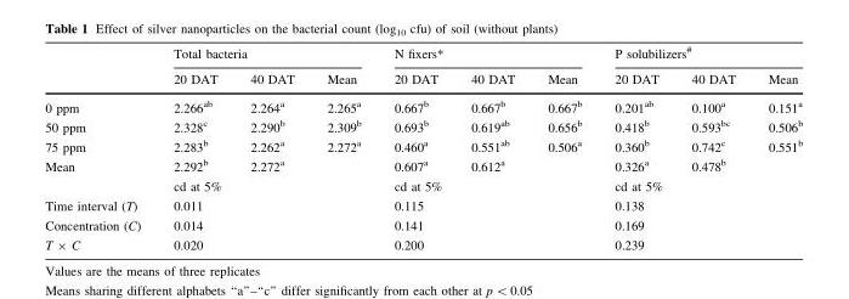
<table><thead><tr><td rowspan="2"></td><td colspan="3">Total bacteria</td><td colspan="3">N fixers*</td><td colspan="3">P solubilizers<sup>#</sup></td></tr><tr><td>20 DAT</td><td>40 DAT</td><td>Mean</td><td>20 DAT</td><td>40 DAT</td><td>Mean</td><td>20 DAT</td><td>40 DAT</td><td>Mean</td></tr></thead><tbody><tr><td>0 ppm</td><td>2.266<sup>ab</sup></td><td>2.264<sup>a</sup></td><td>2.265<sup>a</sup></td><td>0.667<sup>b</sup></td><td>0.667<sup>b</sup></td><td>0.667<sup>b</sup></td><td>0.201<sup>ab</sup></td><td>0.100<sup>a</sup></td><td>0.151<sup>a</sup></td></tr><tr><td>50 ppm</td><td>2.328<sup>c</sup></td><td>2.290<sup>b</sup></td><td>2.309<sup>b</sup></td><td>0.693<sup>b</sup></td><td>0.619<sup>ab</sup></td><td>0.656<sup>b</sup></td><td>0.418<sup>b</sup></td><td>0.593<sup>bc</sup></td><td>0.506<sup>b</sup></td></tr><tr><td>75 ppm</td><td>2.283<sup>b</sup></td><td>2.262<sup>a</sup></td><td>2.272<sup>a</sup></td><td>0.460<sup>a</sup></td><td>0.551<sup>ab</sup></td><td>0.506<sup>a</sup></td><td>0.360<sup>b</sup></td><td>0.742<sup>c</sup></td><td>0.551<sup>b</sup></td></tr><tr><td rowspan="2">Mean</td><td>2.292<sup>b</sup></td><td>2.272<sup>a</sup></td><td></td><td>0.607<sup>a</sup></td><td>0.612<sup>a</sup></td><td></td><td>0.326<sup>a</sup></td><td>0.478<sup>b</sup></td><td></td></tr><tr><td colspan="3">cd at 5%</td><td colspan="3">cd at 5%</td><td colspan="3">cd at 5%</td></tr><tr><td>Time interval (T)</td><td colspan="3">0.011</td><td colspan="3">0.115</td><td colspan="3">0.138</td></tr><tr><td>Concentration (C)</td><td colspan="3">0.014</td><td colspan="3">0.141</td><td colspan="3">0.169</td></tr><tr><td>T × C</td><td colspan="3">0.020</td><td colspan="3">0.200</td><td colspan="3">0.239</td></tr></tbody></table>